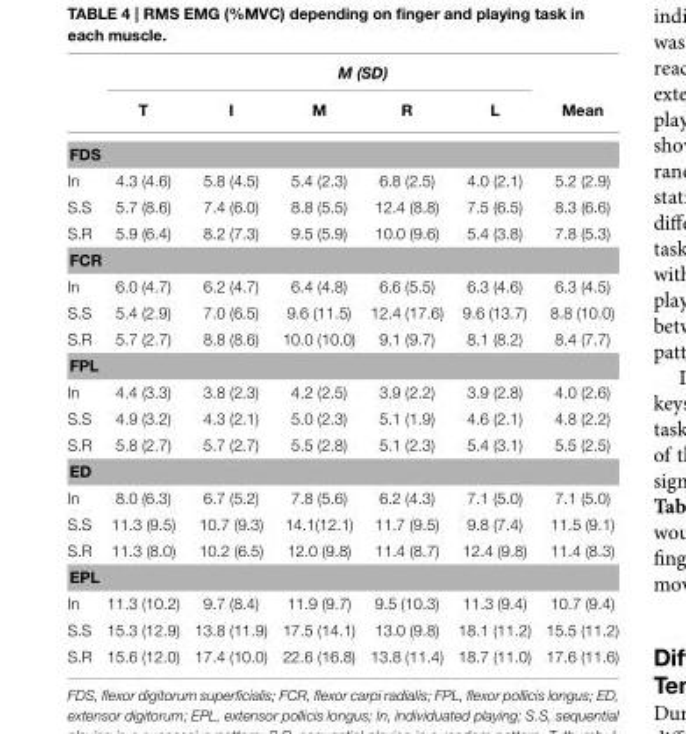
<table><thead><tr><td rowspan="2"></td><td colspan="6">M (SD)</td></tr><tr><td>T</td><td>I</td><td>M</td><td>R</td><td>L</td><td>Mean</td></tr></thead><tbody><tr><td colspan="7">FDS</td></tr><tr><td>In</td><td>4.3 (4.6)</td><td>5.8 (4.5)</td><td>5.4 (2.3)</td><td>6.8 (2.5)</td><td>4.0 (2.1)</td><td>5.2 (2.9)</td></tr><tr><td>S.S</td><td>5.7 (8.6)</td><td>7.4 (6.0)</td><td>8.8 (5.5)</td><td>12.4 (8.8)</td><td>7.5 (6.5)</td><td>8.3 (6.6)</td></tr><tr><td>S.R</td><td>5.9 (6.4)</td><td>8.2 (7.3)</td><td>9.5 (5.9)</td><td>10.0 (9.6)</td><td>5.4 (3.8)</td><td>7.8 (5.3)</td></tr><tr><td colspan="7">FCR</td></tr><tr><td>In</td><td>6.0 (4.7)</td><td>6.2 (4.7)</td><td>6.4 (4.8)</td><td>6.6 (5.5)</td><td>6.3 (4.6)</td><td>6.3 (4.5)</td></tr><tr><td>S.S</td><td>5.4 (2.9)</td><td>7.0 (6.5)</td><td>9.6 (11.5)</td><td>12.4 (17.6)</td><td>9.6 (13.7)</td><td>8.8 (10.0)</td></tr><tr><td>S.R</td><td>5.7 (2.7)</td><td>8.8 (8.6)</td><td>10.0 (10.0)</td><td>9.1 (9.7)</td><td>8.1 (8.2)</td><td>8.4 (7.7)</td></tr><tr><td colspan="7">FPL</td></tr><tr><td>In</td><td>4.4 (3.3)</td><td>3.8 (2.3)</td><td>4.2 (2.5)</td><td>3.9 (2.2)</td><td>3.9 (2.8)</td><td>4.0 (2.6)</td></tr><tr><td>S.S</td><td>4.9 (3.2)</td><td>4.3 (2.1)</td><td>5.0 (2.3)</td><td>5.1 (1.9)</td><td>4.6 (2.1)</td><td>4.8 (2.2)</td></tr><tr><td>S.R</td><td>5.8 (2.7)</td><td>5.7 (2.7)</td><td>5.5 (2.8)</td><td>5.1 (2.3)</td><td>5.4 (3.1)</td><td>5.5 (2.5)</td></tr><tr><td colspan="7">ED</td></tr><tr><td>In</td><td>8.0 (6.3)</td><td>6.7 (5.2)</td><td>7.8 (5.6)</td><td>6.2 (4.3)</td><td>7.1 (5.0)</td><td>7.1 (5.0)</td></tr><tr><td>S.S</td><td>11.3 (9.5)</td><td>10.7 (9.3)</td><td>14.1(12.1)</td><td>11.7 (9.5)</td><td>9.8 (7.4)</td><td>11.5 (9.1)</td></tr><tr><td>S.R</td><td>11.3 (8.0)</td><td>10.2 (6.5)</td><td>12.0 (9.8)</td><td>11.4 (8.7)</td><td>12.4 (9.8)</td><td>11.4 (8.3)</td></tr><tr><td colspan="7">EPL</td></tr><tr><td>In</td><td>11.3 (10.2)</td><td>9.7 (8.4)</td><td>11.9 (9.7)</td><td>9.5 (10.3)</td><td>11.3 (9.4)</td><td>10.7 (9.4)</td></tr><tr><td>S.S</td><td>15.3 (12.9)</td><td>13.8 (11.9)</td><td>17.5 (14.1)</td><td>13.0 (9.8)</td><td>18.1 (11.2)</td><td>15.5 (11.2)</td></tr><tr><td>S.R</td><td>15.6 (12.0)</td><td>17.4 (10.0)</td><td>22.6 (16.8)</td><td>13.8 (11.4)</td><td>18.7 (11.0)</td><td>17.6 (11.6)</td></tr></tbody></table>